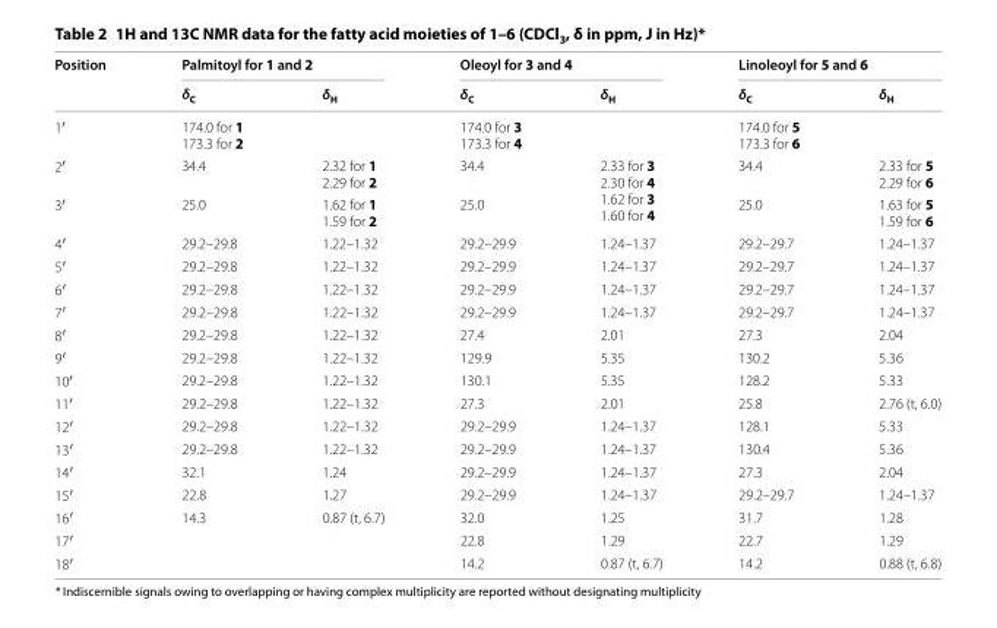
<table><thead><tr><td rowspan="2">Position</td><td colspan="2">Palmitoyl for 1 and 2</td><td colspan="2">Oleoyl for 3 and 4</td><td colspan="2">Linoleoyl for 5 and 6</td></tr><tr><td>δ<sub>C</sub></td><td>δ<sub>H</sub></td><td>δ<sub>C</sub></td><td>δ<sub>H</sub></td><td>δ<sub>C</sub></td><td>δ<sub>H</sub></td></tr></thead><tbody><tr><td>1′</td><td>174.0 for 1 173.3 for 2</td><td></td><td>174.0 for 3 173.3 for 4</td><td></td><td>174.0 for 5 173.3 for 6</td><td></td></tr><tr><td>2′</td><td>34.4</td><td>2.32 for 1 2.29 for 2</td><td>34.4</td><td rowspan="2">2.33 for 3 2.30 for 4 1.62 for 3 1.60 for 4</td><td>34.4</td><td>2.33 for 5 2.29 for 6</td></tr><tr><td>3′</td><td>25.0</td><td>1.62 for 1 1.59 for 2</td><td>25.0</td><td>25.0</td><td>1.63 for 5 1.59 for 6</td></tr><tr><td>4′</td><td>29.2–29.8</td><td>1.22–1.32</td><td>29.2–29.9</td><td>1.24–1.37</td><td>29.2–29.7</td><td>1.24–1.37</td></tr><tr><td>5′</td><td>29.2–29.8</td><td>1.22–1.32</td><td>29.2–29.9</td><td>1.24–1.37</td><td>29.2–29.7</td><td>1.24–1.37</td></tr><tr><td>6′</td><td>29.2–29.8</td><td>1.22–1.32</td><td>29.2–29.9</td><td>1.24–1.37</td><td>29.2–29.7</td><td>1.24–1.37</td></tr><tr><td>7′</td><td>29.2–29.8</td><td>1.22–1.32</td><td>29.2–29.9</td><td>1.24–1.37</td><td>29.2–29.7</td><td>1.24–1.37</td></tr><tr><td>8′</td><td>29.2–29.8</td><td>1.22–1.32</td><td>27.4</td><td>2.01</td><td>27.3</td><td>2.04</td></tr><tr><td>9′</td><td>29.2–29.8</td><td>1.22–1.32</td><td>129.9</td><td>5.35</td><td>130.2</td><td>5.36</td></tr><tr><td>10′</td><td>29.2–29.8</td><td>1.22–1.32</td><td>130.1</td><td>5.35</td><td>128.2</td><td>5.33</td></tr><tr><td>11′</td><td>29.2–29.8</td><td>1.22–1.32</td><td>27.3</td><td>2.01</td><td>25.8</td><td>2.76 (t, 6.0)</td></tr><tr><td>12′</td><td>29.2–29.8</td><td>1.22–1.32</td><td>29.2–29.9</td><td>1.24–1.37</td><td>128.1</td><td>5.33</td></tr><tr><td>13′</td><td>29.2–29.8</td><td>1.22–1.32</td><td>29.2–29.9</td><td>1.24–1.37</td><td>130.4</td><td>5.36</td></tr><tr><td>14′</td><td>32.1</td><td>1.24</td><td>29.2–29.9</td><td>1.24–1.37</td><td>27.3</td><td>2.04</td></tr><tr><td>15′</td><td>22.8</td><td>1.27</td><td>29.2–29.9</td><td>1.24–1.37</td><td>29.2–29.7</td><td>1.24–1.37</td></tr><tr><td>16′</td><td>14.3</td><td>0.87 (t, 6.7)</td><td>32.0</td><td>1.25</td><td>31.7</td><td>1.28</td></tr><tr><td>17′</td><td></td><td></td><td>22.8</td><td>1.29</td><td>22.7</td><td>1.29</td></tr><tr><td>18′</td><td></td><td></td><td>14.2</td><td>0.87 (t, 6.7)</td><td>14.2</td><td>0.88 (t, 6.8)</td></tr></tbody></table>